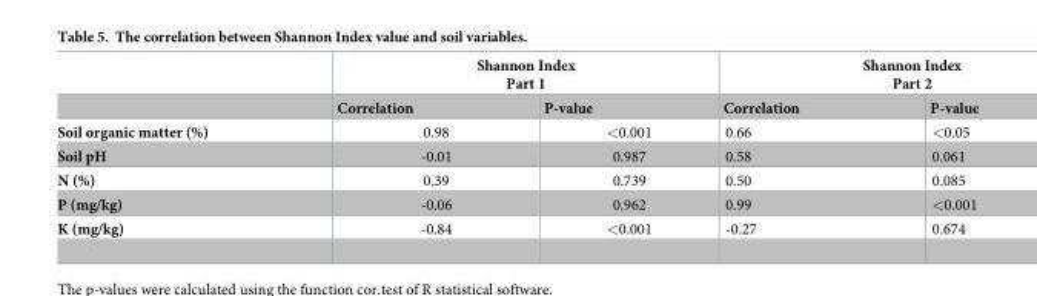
<table><thead><tr><td rowspan="2"></td><td colspan="2">Shannon Index Part 1</td><td colspan="2">Shannon Index Part 2</td></tr><tr><td>Correlation</td><td>P-value</td><td>Correlation</td><td>P-value</td></tr></thead><tbody><tr><td>Soil organic matter (%)</td><td>0.98</td><td>&lt;0.001</td><td>0.66</td><td>&lt;0.05</td></tr><tr><td>Soil pH</td><td>-0.01</td><td>0.987</td><td>0.58</td><td>0.061</td></tr><tr><td>N (%)</td><td>0.39</td><td>0.739</td><td>0.50</td><td>0.085</td></tr><tr><td>P (mg/kg)</td><td>-0.06</td><td>0.962</td><td>0.99</td><td>&lt;0.001</td></tr><tr><td>K (mg/kg)</td><td>-0.84</td><td>&lt;0.001</td><td>-0.27</td><td>0.674</td></tr></tbody></table>